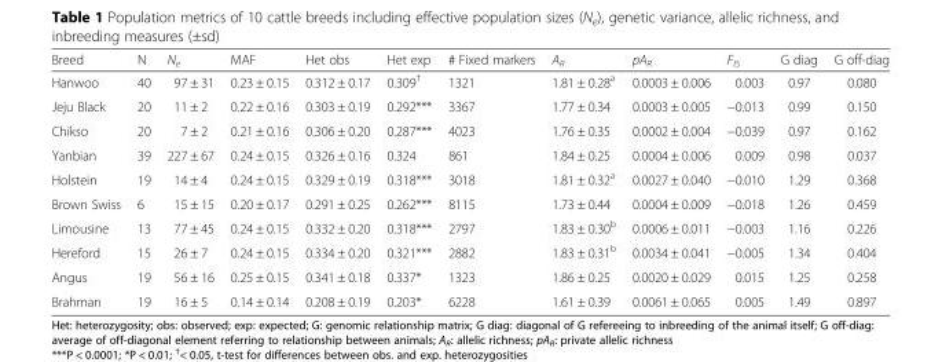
<table><thead><tr><td>Breed</td><td>N</td><td>N<sub>e</sub></td><td>MAF</td><td>Het obs</td><td>Het exp</td><td># Fixed markers</td><td>A<sub>R</sub></td><td>pA<sub>R</sub></td><td>F<sub>IS</sub></td><td>G diag</td><td>G off-diag</td></tr></thead><tbody><tr><td>Hanwoo</td><td>40</td><td>97 ± 31</td><td>0.23 ± 0.15</td><td>0.312 ± 0.17</td><td>0.309<sup>†</sup></td><td>1321</td><td>1.81 ± 0.28<sup>a</sup></td><td>0.0003 ± 0.006</td><td>0.003</td><td>0.97</td><td>0.080</td></tr><tr><td>Jeju Black</td><td>20</td><td>11 ± 2</td><td>0.22 ± 0.16</td><td>0.303 ± 0.19</td><td>0.292***</td><td>3367</td><td>1.77 ± 0.34</td><td>0.0003 ± 0.005</td><td>−0.013</td><td>0.99</td><td>0.150</td></tr><tr><td>Chikso</td><td>20</td><td>7 ± 2</td><td>0.21 ± 0.16</td><td>0.306 ± 0.20</td><td>0.287***</td><td>4023</td><td>1.76 ± 0.35</td><td>0.0002 ± 0.004</td><td>−0.039</td><td>0.97</td><td>0.162</td></tr><tr><td>Yanbian</td><td>39</td><td>227 ± 67</td><td>0.24 ± 0.15</td><td>0.326 ± 0.16</td><td>0.324</td><td>861</td><td>1.84 ± 0.25</td><td>0.0004 ± 0.006</td><td>0.009</td><td>0.98</td><td>0.037</td></tr><tr><td>Holstein</td><td>19</td><td>14 ± 4</td><td>0.24 ± 0.15</td><td>0.329 ± 0.19</td><td>0.318***</td><td>3018</td><td>1.81 ± 0.32<sup>a</sup></td><td>0.0027 ± 0.040</td><td>−0.010</td><td>1.29</td><td>0.368</td></tr><tr><td>Brown Swiss</td><td>6</td><td>15 ± 15</td><td>0.20 ± 0.17</td><td>0.291 ± 0.25</td><td>0.262***</td><td>8115</td><td>1.73 ± 0.44</td><td>0.0004 ± 0.009</td><td>−0.018</td><td>1.26</td><td>0.459</td></tr><tr><td>Limousine</td><td>13</td><td>77 ± 45</td><td>0.24 ± 0.15</td><td>0.332 ± 0.20</td><td>0.318***</td><td>2797</td><td>1.83 ± 0.30<sup>b</sup></td><td>0.0006 ± 0.011</td><td>−0.003</td><td>1.16</td><td>0.226</td></tr><tr><td>Hereford</td><td>15</td><td>26 ± 7</td><td>0.24 ± 0.15</td><td>0.334 ± 0.20</td><td>0.321***</td><td>2882</td><td>1.83 ± 0.31<sup>b</sup></td><td>0.0034 ± 0.041</td><td>−0.005</td><td>1.34</td><td>0.404</td></tr><tr><td>Angus</td><td>19</td><td>56 ± 16</td><td>0.25 ± 0.15</td><td>0.341 ± 0.18</td><td>0.337*</td><td>1323</td><td>1.86 ± 0.25</td><td>0.0020 ± 0.029</td><td>0.015</td><td>1.25</td><td>0.258</td></tr><tr><td>Brahman</td><td>19</td><td>16 ± 5</td><td>0.14 ± 0.14</td><td>0.208 ± 0.19</td><td>0.203*</td><td>6228</td><td>1.61 ± 0.39</td><td>0.0061 ± 0.065</td><td>0.005</td><td>1.49</td><td>0.897</td></tr></tbody></table>